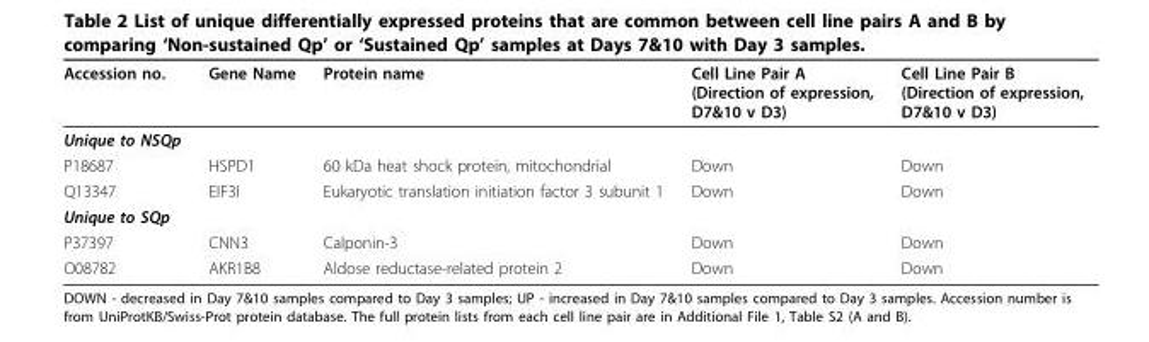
<table><thead><tr><td>Accession no.</td><td>Gene Name</td><td>Protein name</td><td>Cell Line Pair A (Direction of expression, D7&amp;10 v D3)</td><td>Cell Line Pair B (Direction of expression, D7&amp;10 v D3)</td></tr></thead><tbody><tr><td colspan="5">Unique to NSQp</td></tr><tr><td>P18687</td><td>HSPD1</td><td>60 kDa heat shock protein, mitochondrial</td><td>Down</td><td>Down</td></tr><tr><td>Q13347</td><td>EIF3I</td><td>Eukaryotic translation initiation factor 3 subunit 1</td><td>Down</td><td>Down</td></tr><tr><td colspan="5">Unique to SQp</td></tr><tr><td>P37397</td><td>CNN3</td><td>Calponin-3</td><td>Down</td><td>Down</td></tr><tr><td>O08782</td><td>AKR1B8</td><td>Aldose reductase-related protein 2</td><td>Down</td><td>Down</td></tr></tbody></table>